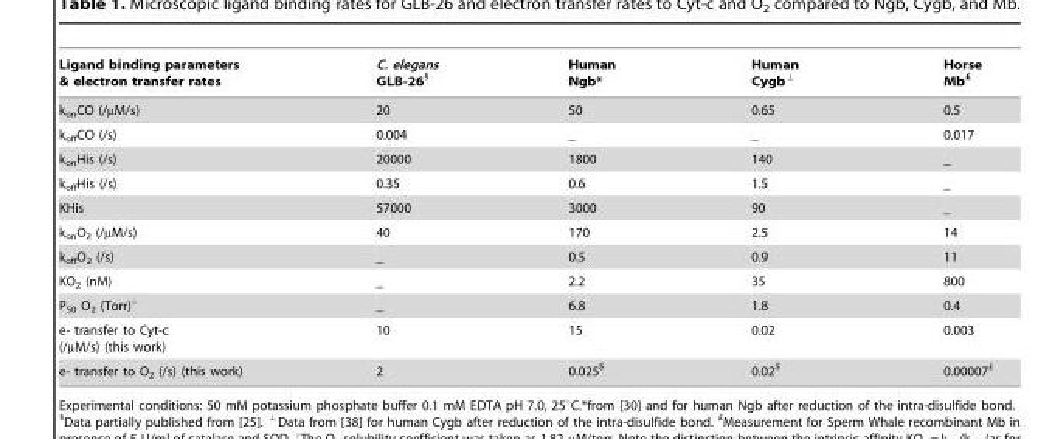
<table><thead><tr><td>Ligand binding parameters &amp; electron transfer rates</td><td>C. elegans GLB-26<sup>§</sup></td><td>Human Ngb*</td><td>Human Cygb<sup>⊥</sup></td><td>Horse Mb<sup>£</sup></td></tr></thead><tbody><tr><td>k<sub>on</sub>CO (/µM/s)</td><td>20</td><td>50</td><td>0.65</td><td>0.5</td></tr><tr><td>k<sub>off</sub>CO (/s)</td><td>0.004</td><td>_</td><td>_</td><td>0.017</td></tr><tr><td>k<sub>on</sub>His (/s)</td><td>20000</td><td>1800</td><td>140</td><td>_</td></tr><tr><td>k<sub>off</sub>His (/s)</td><td>0.35</td><td>0.6</td><td>1.5</td><td>_</td></tr><tr><td>KHis</td><td>57000</td><td>3000</td><td>90</td><td>_</td></tr><tr><td>k<sub>on</sub>O<sub>2</sub> (/µM/s)</td><td>40</td><td>170</td><td>2.5</td><td>14</td></tr><tr><td>k<sub>off</sub>O<sub>2</sub> (/s)</td><td>_</td><td>0.5</td><td>0.9</td><td>11</td></tr><tr><td>KO<sub>2</sub> (nM)</td><td>_</td><td>2.2</td><td>35</td><td>800</td></tr><tr><td>P<sub>50</sub> O<sub>2</sub> (Torr)°</td><td>_</td><td>6.8</td><td>1.8</td><td>0.4</td></tr><tr><td>e- transfer to Cyt-c (/µM/s) (this work)</td><td>10</td><td>15</td><td>0.02</td><td>0.003</td></tr><tr><td>e- transfer to O<sub>2</sub> (/s) (this work)</td><td>2</td><td>0.025<sup>$</sup></td><td>0.02<sup>$</sup></td><td>0.00007<sup>£</sup></td></tr></tbody></table>